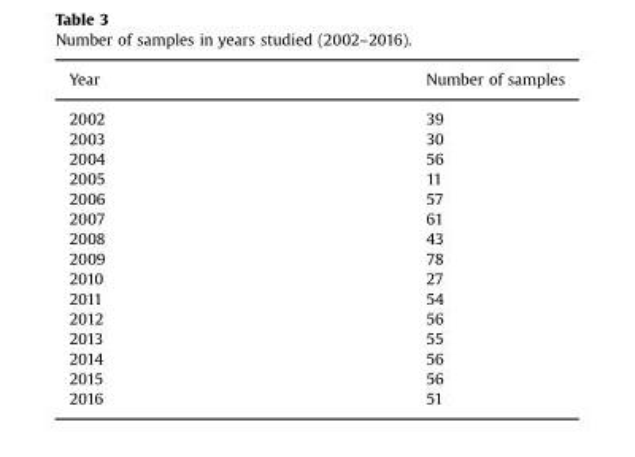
<table><thead><tr><td>Year</td><td>Number of samples</td></tr></thead><tbody><tr><td>2002</td><td>39</td></tr><tr><td>2003</td><td>30</td></tr><tr><td>2004</td><td>56</td></tr><tr><td>2005</td><td>11</td></tr><tr><td>2006</td><td>57</td></tr><tr><td>2007</td><td>61</td></tr><tr><td>2008</td><td>43</td></tr><tr><td>2009</td><td>78</td></tr><tr><td>2010</td><td>27</td></tr><tr><td>2011</td><td>54</td></tr><tr><td>2012</td><td>56</td></tr><tr><td>2013</td><td>55</td></tr><tr><td>2014</td><td>56</td></tr><tr><td>2015</td><td>56</td></tr><tr><td>2016</td><td>51</td></tr></tbody></table>